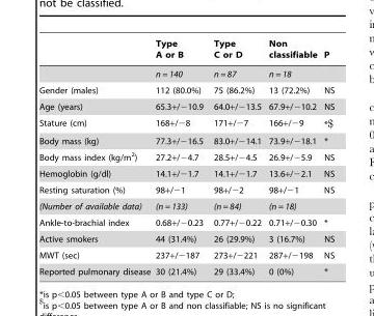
<table><thead><tr><td></td><td>Type A or B</td><td>Type C or D</td><td>Non classifiable</td><td>P</td></tr></thead><tbody><tr><td></td><td>n = 140</td><td>n = 87</td><td>n = 18</td><td></td></tr><tr><td>Gender (males)</td><td>112 (80.0%)</td><td>75 (86.2%)</td><td>13 (72.2%)</td><td>NS</td></tr><tr><td>Age (years)</td><td>65.3+/−10.9</td><td>64.0+/−13.5</td><td>67.9+/−10.2</td><td>NS</td></tr><tr><td>Stature (cm)</td><td>168+/−8</td><td>171+/−7</td><td>166+/−9</td><td>*$</td></tr><tr><td>Body mass (kg)</td><td>77.3+/−16.5</td><td>83.0+/−14.1</td><td>73.9+/−18.1</td><td>*</td></tr><tr><td>Body mass index (kg/m<sup>2</sup>)</td><td>27.2+/−4.7</td><td>28.5+/−4.5</td><td>26.9+/−5.9</td><td>NS</td></tr><tr><td>Hemoglobin (g/dl)</td><td>14.1+/−1.7</td><td>14.1+/−1.7</td><td>13.6+/−2.1</td><td>NS</td></tr><tr><td>Resting saturation (%)</td><td>98+/−1</td><td>98+/−2</td><td>98+/−1</td><td>NS</td></tr><tr><td>(Number of available data)</td><td>(n = 133)</td><td>(n = 84)</td><td>(n = 18)</td><td></td></tr><tr><td>Ankle-to-brachial index</td><td>0.68+/−0.23</td><td>0.77+/−0.22</td><td>0.71+/−0.30</td><td>*</td></tr><tr><td>Active smokers</td><td>44 (31.4%)</td><td>26 (29.9%)</td><td>3 (16.7%)</td><td>NS</td></tr><tr><td>MWT (sec)</td><td>237+/−187</td><td>273+/−221</td><td>287+/−198</td><td>NS</td></tr><tr><td>Reported pulmonary disease</td><td>30 (21.4%)</td><td>29 (33.4%)</td><td>0 (0%)</td><td>*</td></tr></tbody></table>